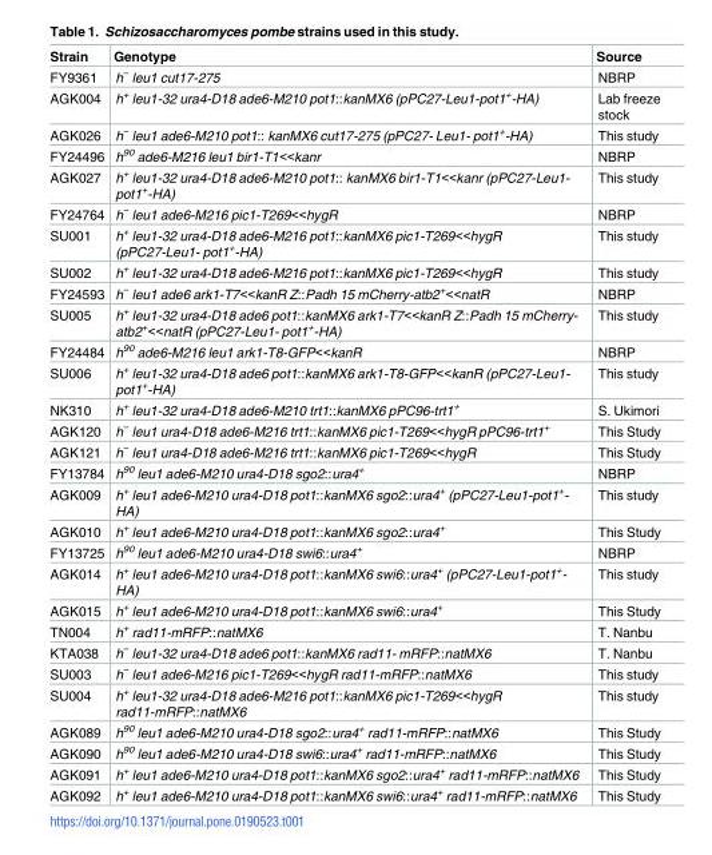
<table><thead><tr><td>Strain</td><td>Genotype</td><td>Source</td></tr></thead><tbody><tr><td>FY9361</td><td>h<sup>−</sup> leu1 cut17-275</td><td>NBRP</td></tr><tr><td>AGK004</td><td>h<sup>+</sup> leu1-32 ura4-D18 ade6-M210 pot1::kanMX6 (pPC27-Leu1-pot1<sup>+</sup>-HA)</td><td>Lab freeze stock</td></tr><tr><td>AGK026</td><td>h<sup>−</sup> leu1 ade6-M210 pot1:: kanMX6 cut17-275 (pPC27- Leu1- pot1<sup>+</sup>-HA)</td><td>This study</td></tr><tr><td>FY24496</td><td>h<sup>90</sup> ade6-M216 leu1 bir1-T1&lt;&lt;kanr</td><td>NBRP</td></tr><tr><td>AGK027</td><td>h<sup>+</sup> leu1-32 ura4-D18 ade6-M210 pot1:: kanMX6 bir1-T1&lt;&lt;kanr (pPC27-Leu1- pot1<sup>+</sup>-HA)</td><td>This study</td></tr><tr><td>FY24764</td><td>h<sup>−</sup> leu1 ade6-M216 pic1-T269&lt;&lt;hygR</td><td>NBRP</td></tr><tr><td>SU001</td><td>h<sup>+</sup> leu1-32 ura4-D18 ade6-M216 pot1::kanMX6 pic1-T269&lt;&lt;hygR (pPC27-Leu1- pot1<sup>+</sup>-HA)</td><td>This study</td></tr><tr><td>SU002</td><td>h<sup>+</sup> leu1-32 ura4-D18 ade6-M216 pot1::kanMX6 pic1-T269&lt;&lt;hygR</td><td>This study</td></tr><tr><td>FY24593</td><td>h<sup>−</sup> leu1 ade6 ark1-T7&lt;&lt;kanR Z::Padh 15 mCherry-atb2<sup>+</sup>&lt;&lt;natR</td><td>NBRP</td></tr><tr><td>SU005</td><td>h<sup>+</sup> leu1-32 ura4-D18 ade6 pot1::kanMX6 ark1-T7&lt;&lt;kanR Z::Padh 15 mCherry- atb2<sup>+</sup>&lt;&lt;natR (pPC27-Leu1- pot1<sup>+</sup>-HA)</td><td>This study</td></tr><tr><td>FY24484</td><td>h<sup>90</sup> ade6-M216 leu1 ark1-T8-GFP&lt;&lt;kanR</td><td>NBRP</td></tr><tr><td>SU006</td><td>h<sup>+</sup> leu1-32 ura4-D18 ade6 pot1::kanMX6 ark1-T8-GFP&lt;&lt;kanR (pPC27-Leu1- pot1<sup>+</sup>-HA)</td><td>This study</td></tr><tr><td>NK310</td><td>h<sup>+</sup> leu1-32 ura4-D18 ade6-M210 trt1::kanMX6 pPC96-trt1<sup>+</sup></td><td>S. Ukimori</td></tr><tr><td>AGK120</td><td>h<sup>−</sup> leu1 ura4-D18 ade6-M216 trt1::kanMX6 pic1-T269&lt;&lt;hygR pPC96-trt1<sup>+</sup></td><td>This Study</td></tr><tr><td>AGK121</td><td>h<sup>−</sup> leu1 ura4-D18 ade6-M216 trt1::kanMX6 pic1-T269&lt;&lt;hygR</td><td>This Study</td></tr><tr><td>FY13784</td><td>h<sup>90</sup> leu1 ade6-M210 ura4-D18 sgo2::ura4<sup>+</sup></td><td>NBRP</td></tr><tr><td>AGK009</td><td>h<sup>+</sup> leu1 ade6-M210 ura4-D18 pot1::kanMX6 sgo2::ura4<sup>+</sup> (pPC27-Leu1-pot1<sup>+</sup>- HA)</td><td>This study</td></tr><tr><td>AGK010</td><td>h<sup>+</sup> leu1 ade6-M210 ura4-D18 pot1::kanMX6 sgo2::ura4<sup>+</sup></td><td>This Study</td></tr><tr><td>FY13725</td><td>h<sup>90</sup> leu1 ade6-M210 ura4-D18 swi6::ura4<sup>+</sup></td><td>NBRP</td></tr><tr><td>AGK014</td><td>h<sup>+</sup> leu1 ade6-M210 ura4-D18 pot1::kanMX6 swi6::ura4<sup>+</sup> (pPC27-Leu1-pot1<sup>+</sup>- HA)</td><td>This study</td></tr><tr><td>AGK015</td><td>h<sup>+</sup> leu1 ade6-M210 ura4-D18 pot1::kanMX6 swi6::ura4<sup>+</sup></td><td>This Study</td></tr><tr><td>TN004</td><td>h<sup>+</sup> rad11-mRFP::natMX6</td><td>T. Nanbu</td></tr><tr><td>KTA038</td><td>h<sup>−</sup> leu1-32 ura4-D18 ade6 pot1::kanMX6 rad11- mRFP::natMX6</td><td>T. Nanbu</td></tr><tr><td>SU003</td><td>h<sup>−</sup> leu1 ade6-M216 pic1-T269&lt;&lt;hygR rad11-mRFP::natMX6</td><td>This study</td></tr><tr><td>SU004</td><td>h<sup>+</sup> leu1-32 ura4-D18 ade6-M216 pot1::kanMX6 pic1-T269&lt;&lt;hygR rad11-mRFP::natMX6</td><td>This study</td></tr><tr><td>AGK089</td><td>h<sup>90</sup> leu1 ade6-M210 ura4-D18 sgo2::ura4<sup>+</sup> rad11-mRFP::natMX6</td><td>This Study</td></tr><tr><td>AGK090</td><td>h<sup>90</sup> leu1 ade6-M210 ura4-D18 swi6::ura4<sup>+</sup> rad11-mRFP::natMX6</td><td>This Study</td></tr><tr><td>AGK091</td><td>h<sup>+</sup> leu1 ade6-M210 ura4-D18 pot1::kanMX6 sgo2::ura4<sup>+</sup> rad11-mRFP::natMX6</td><td>This Study</td></tr><tr><td>AGK092</td><td>h<sup>+</sup> leu1 ade6-M210 ura4-D18 pot1::kanMX6 swi6::ura4<sup>+</sup> rad11-mRFP::natMX6</td><td>This Study</td></tr></tbody></table>